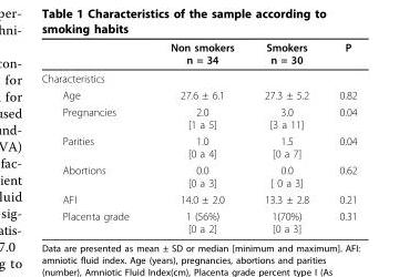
<table><thead><tr><td></td><td>Non smokers n = 34</td><td>Smokers n = 30</td><td>P</td></tr></thead><tbody><tr><td colspan="4">Characteristics</td></tr><tr><td>Age</td><td>27.6 ± 6.1</td><td>27.3 ± 5.2</td><td>0.82</td></tr><tr><td>Pregnancies</td><td>2.0 [1 a 5]</td><td>3.0 [3 a 11]</td><td>0.04</td></tr><tr><td>Parities</td><td>1.0 [0 a 4]</td><td>1.5 [0 a 7]</td><td>0.04</td></tr><tr><td>Abortions</td><td>0.0 [0 a 3]</td><td>0.0 [ 0 a 3]</td><td>0.62</td></tr><tr><td>AFI</td><td>14.0 ± 2.0</td><td>13.3 ± 2.8</td><td>0.21</td></tr><tr><td>Placenta grade</td><td>1 (56%) [0 a 2]</td><td>1(70%) [0 a 3]</td><td>0.31</td></tr></tbody></table>